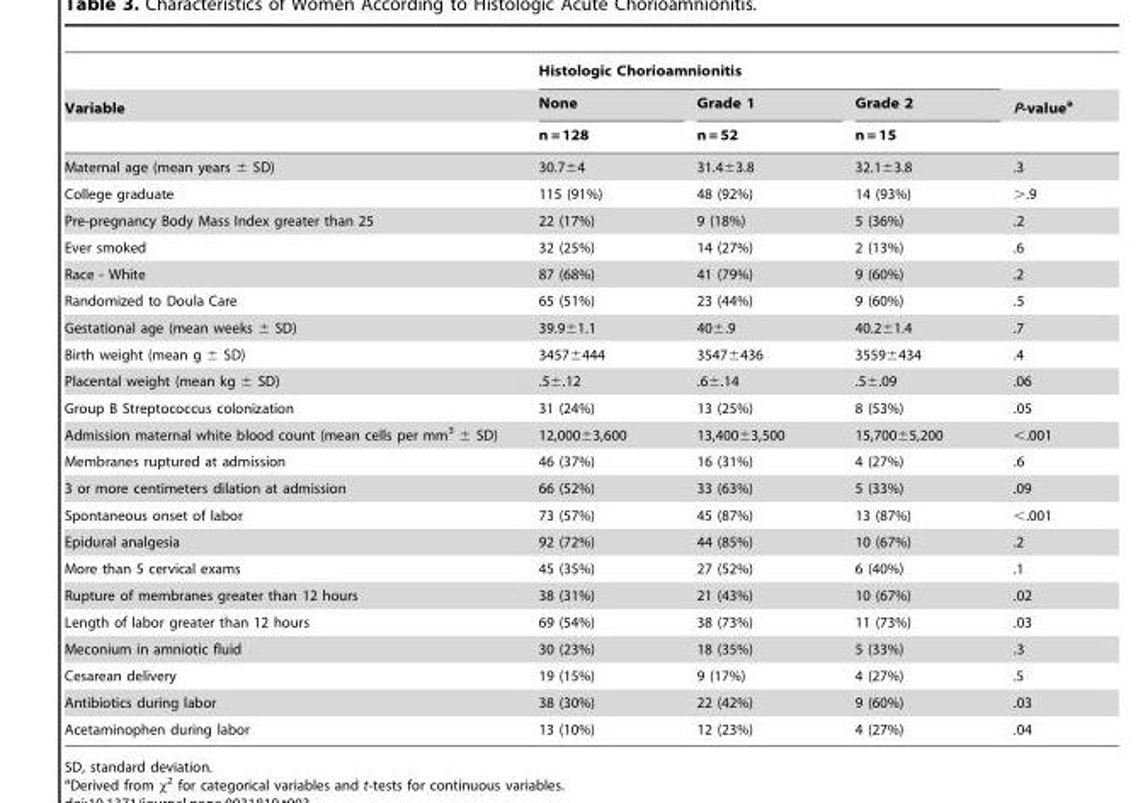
<table><thead><tr><td rowspan="3">Variable</td><td colspan="3">Histologic Chorioamnionitis</td><td rowspan="3">P-value<sup>a</sup></td></tr><tr><td rowspan="2">None n = 128</td><td rowspan="2">Grade 1 n = 52</td><td rowspan="2">Grade 2 n = 15</td></tr><tr></tr></thead><tbody><tr><td>Maternal age (mean years ± SD)</td><td>30.7±4</td><td>31.4±3.8</td><td>32.1±3.8</td><td>.3</td></tr><tr><td>College graduate</td><td>115 (91%)</td><td>48 (92%)</td><td>14 (93%)</td><td>&gt;.9</td></tr><tr><td>Pre-pregnancy Body Mass Index greater than 25</td><td>22 (17%)</td><td>9 (18%)</td><td>5 (36%)</td><td>.2</td></tr><tr><td>Ever smoked</td><td>32 (25%)</td><td>14 (27%)</td><td>2 (13%)</td><td>.6</td></tr><tr><td>Race - White</td><td>87 (68%)</td><td>41 (79%)</td><td>9 (60%)</td><td>.2</td></tr><tr><td>Randomized to Doula Care</td><td>65 (51%)</td><td>23 (44%)</td><td>9 (60%)</td><td>.5</td></tr><tr><td>Gestational age (mean weeks ± SD)</td><td>39.9±1.1</td><td>40±.9</td><td>40.2±1.4</td><td>.7</td></tr><tr><td>Birth weight (mean g ± SD)</td><td>3457±444</td><td>3547±436</td><td>3559±434</td><td>.4</td></tr><tr><td>Placental weight (mean kg ± SD)</td><td>.5±.12</td><td>.6±.14</td><td>.5±.09</td><td>.06</td></tr><tr><td>Group B Streptococcus colonization</td><td>31 (24%)</td><td>13 (25%)</td><td>8 (53%)</td><td>.05</td></tr><tr><td>Admission maternal white blood count (mean cells per mm<sup>3</sup> ± SD)</td><td>12,000±3,600</td><td>13,400±3,500</td><td>15,700±5,200</td><td>&lt;.001</td></tr><tr><td>Membranes ruptured at admission</td><td>46 (37%)</td><td>16 (31%)</td><td>4 (27%)</td><td>.6</td></tr><tr><td>3 or more centimeters dilation at admission</td><td>66 (52%)</td><td>33 (63%)</td><td>5 (33%)</td><td>.09</td></tr><tr><td>Spontaneous onset of labor</td><td>73 (57%)</td><td>45 (87%)</td><td>13 (87%)</td><td>&lt;.001</td></tr><tr><td>Epidural analgesia</td><td>92 (72%)</td><td>44 (85%)</td><td>10 (67%)</td><td>.2</td></tr><tr><td>More than 5 cervical exams</td><td>45 (35%)</td><td>27 (52%)</td><td>6 (40%)</td><td>.1</td></tr><tr><td>Rupture of membranes greater than 12 hours</td><td>38 (31%)</td><td>21 (43%)</td><td>10 (67%)</td><td>.02</td></tr><tr><td>Length of labor greater than 12 hours</td><td>69 (54%)</td><td>38 (73%)</td><td>11 (73%)</td><td>.03</td></tr><tr><td>Meconium in amniotic fluid</td><td>30 (23%)</td><td>18 (35%)</td><td>5 (33%)</td><td>.3</td></tr><tr><td>Cesarean delivery</td><td>19 (15%)</td><td>9 (17%)</td><td>4 (27%)</td><td>.5</td></tr><tr><td>Antibiotics during labor</td><td>38 (30%)</td><td>22 (42%)</td><td>9 (60%)</td><td>.03</td></tr><tr><td>Acetaminophen during labor</td><td>13 (10%)</td><td>12 (23%)</td><td>4 (27%)</td><td>.04</td></tr></tbody></table>